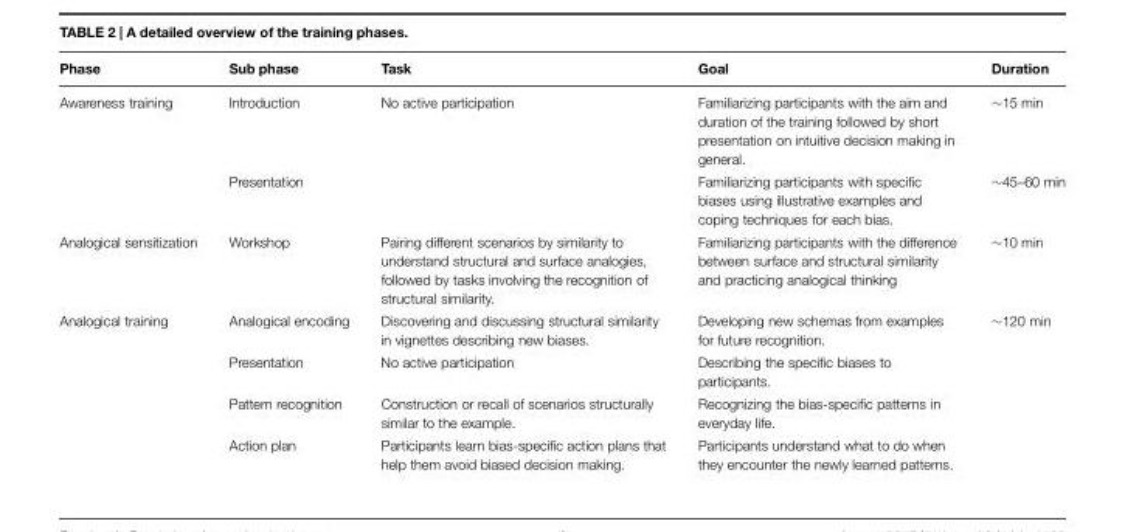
<table><thead><tr><td>Phase</td><td>Sub phase</td><td>Task</td><td>Goal</td><td>Duration</td></tr></thead><tbody><tr><td rowspan="2">Awareness training</td><td>Introduction</td><td>No active participation</td><td>Familiarizing participants with the aim and duration of the training followed by short presentation on intuitive decision making in general.</td><td>∼15 min</td></tr><tr><td>Presentation</td><td></td><td>Familiarizing participants with specific biases using illustrative examples and coping techniques for each bias.</td><td>∼45–60 min</td></tr><tr><td>Analogical sensitization</td><td>Workshop</td><td>Pairing different scenarios by similarity to understand structural and surface analogies, followed by tasks involving the recognition of structural similarity.</td><td>Familiarizing participants with the difference between surface and structural similarity and practicing analogical thinking</td><td>∼10 min</td></tr><tr><td rowspan="4">Analogical training</td><td>Analogical encoding</td><td>Discovering and discussing structural similarity in vignettes describing new biases.</td><td>Developing new schemas from examples for future recognition.</td><td>∼120 min</td></tr><tr><td>Presentation</td><td>No active participation</td><td>Describing the specific biases to participants.</td><td></td></tr><tr><td>Pattern recognition</td><td>Construction or recall of scenarios structurally similar to the example.</td><td>Recognizing the bias-specific patterns in everyday life.</td><td></td></tr><tr><td>Action plan</td><td>Participants learn bias-specific action plans that help them avoid biased decision making.</td><td>Participants understand what to do when they encounter the newly learned patterns.</td><td></td></tr></tbody></table>